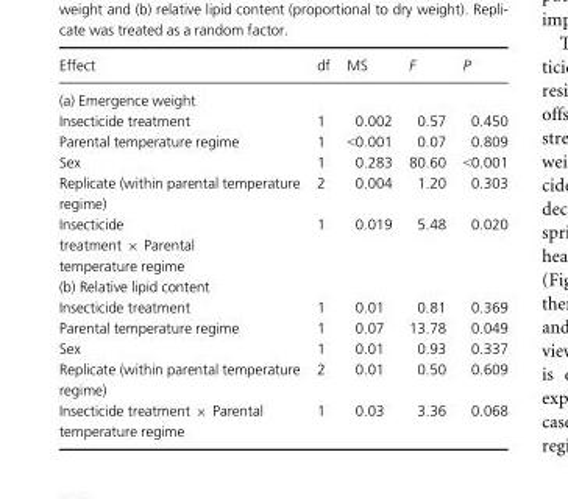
<table><thead><tr><td>Effect</td><td>df</td><td>MS</td><td>F</td><td>P</td></tr></thead><tbody><tr><td colspan="5">(a) Emergence weight</td></tr><tr><td>Insecticide treatment</td><td>1</td><td>0.002</td><td>0.57</td><td>0.450</td></tr><tr><td>Parental temperature regime</td><td>1</td><td>&lt;0.001</td><td>0.07</td><td>0.809</td></tr><tr><td>Sex</td><td>1</td><td>0.283</td><td>80.60</td><td>&lt;0.001</td></tr><tr><td>Replicate (within parental temperature regime)</td><td>2</td><td>0.004</td><td>1.20</td><td>0.303</td></tr><tr><td>Insecticide treatment × Parental temperature regime</td><td>1</td><td>0.019</td><td>5.48</td><td>0.020</td></tr><tr><td colspan="5">(b) Relative lipid content</td></tr><tr><td>Insecticide treatment</td><td>1</td><td>0.01</td><td>0.81</td><td>0.369</td></tr><tr><td>Parental temperature regime</td><td>1</td><td>0.07</td><td>13.78</td><td>0.049</td></tr><tr><td>Sex</td><td>1</td><td>0.01</td><td>0.93</td><td>0.337</td></tr><tr><td>Replicate (within parental temperature regime)</td><td>2</td><td>0.01</td><td>0.50</td><td>0.609</td></tr><tr><td>Insecticide treatment × Parental temperature regime</td><td>1</td><td>0.03</td><td>3.36</td><td>0.068</td></tr></tbody></table>